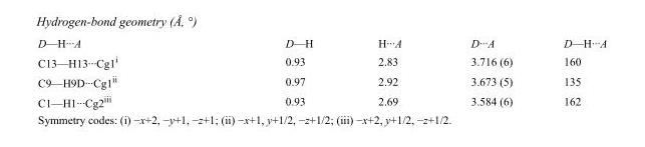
<table><tbody><tr><td>D—H···A</td><td>D—H</td><td>H···A</td><td>D···A</td><td>D—H···A</td></tr><tr><td>C13—H13···Cg1<sup>i</sup></td><td>0.93</td><td>2.83</td><td>3.716 (6)</td><td>160</td></tr><tr><td>C9—H9D···Cg1<sup>ii</sup></td><td>0.97</td><td>2.92</td><td>3.673 (5)</td><td>135</td></tr><tr><td>C1—H1···Cg2<sup>iii</sup></td><td>0.93</td><td>2.69</td><td>3.584 (6)</td><td>162</td></tr></tbody></table>